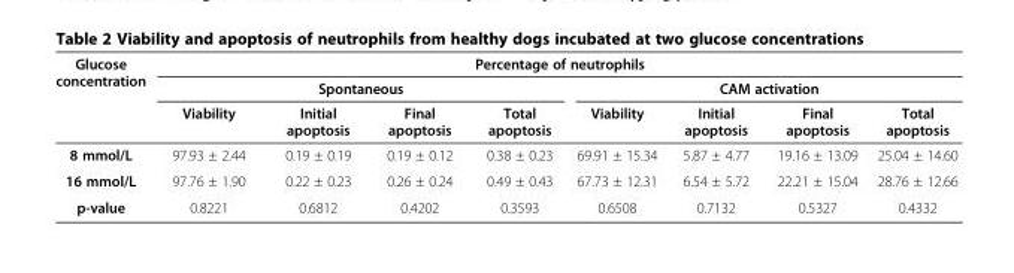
<table><thead><tr><td rowspan="3">Glucose concentration</td><td colspan="8">Percentage of neutrophils</td></tr><tr><td colspan="4">Spontaneous</td><td colspan="4">CAM activation</td></tr><tr><td>Viability</td><td>Initial apoptosis</td><td>Final apoptosis</td><td>Total apoptosis</td><td>Viability</td><td>Initial apoptosis</td><td>Final apoptosis</td><td>Total apoptosis</td></tr></thead><tbody><tr><td>8 mmol/L</td><td>97.93 ± 2.44</td><td>0.19 ± 0.19</td><td>0.19 ± 0.12</td><td>0.38 ± 0.23</td><td>69.91 ± 15.34</td><td>5.87 ± 4.77</td><td>19.16 ± 13.09</td><td>25.04 ± 14.60</td></tr><tr><td>16 mmol/L</td><td>97.76 ± 1.90</td><td>0.22 ± 0.23</td><td>0.26 ± 0.24</td><td>0.49 ± 0.43</td><td>67.73 ± 12.31</td><td>6.54 ± 5.72</td><td>22.21 ± 15.04</td><td>28.76 ± 12.66</td></tr><tr><td>p-value</td><td>0.8221</td><td>0.6812</td><td>0.4202</td><td>0.3593</td><td>0.6508</td><td>0.7132</td><td>0.5327</td><td>0.4332</td></tr></tbody></table>